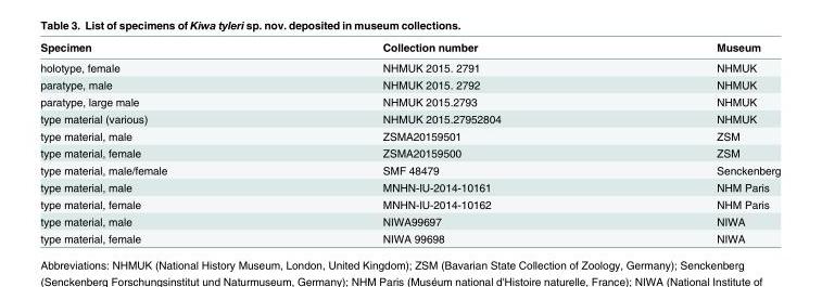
<table><thead><tr><td>Specimen</td><td>Collection number</td><td>Museum</td></tr></thead><tbody><tr><td>holotype, female</td><td>NHMUK 2015. 2791</td><td>NHMUK</td></tr><tr><td>paratype, male</td><td>NHMUK 2015. 2792</td><td>NHMUK</td></tr><tr><td>paratype, large male</td><td>NHMUK 2015.2793</td><td>NHMUK</td></tr><tr><td>type material (various)</td><td>NHMUK 2015.27952804</td><td>NHMUK</td></tr><tr><td>type material, male</td><td>ZSMA20159501</td><td>ZSM</td></tr><tr><td>type material, female</td><td>ZSMA20159500</td><td>ZSM</td></tr><tr><td>type material, male/female</td><td>SMF 48479</td><td>Senckenberg</td></tr><tr><td>type material, male</td><td>MNHN-IU-2014-10161</td><td>NHM Paris</td></tr><tr><td>type material, female</td><td>MNHN-IU-2014-10162</td><td>NHM Paris</td></tr><tr><td>type material, male</td><td>NIWA99697</td><td>NIWA</td></tr><tr><td>type material, female</td><td>NIWA 99698</td><td>NIWA</td></tr></tbody></table>